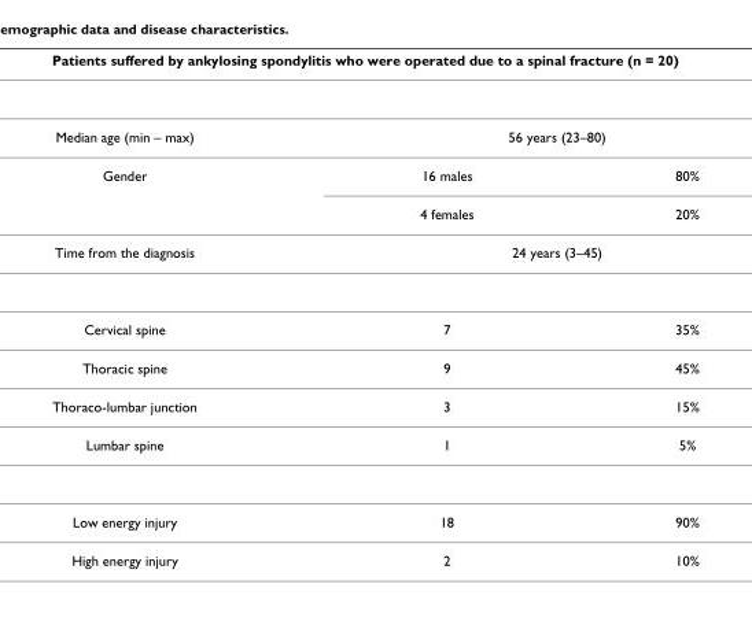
<table><thead><tr><td colspan="3">Patients suffered by ankylosing spondylitis who were operated due to a spinal fracture (n = 20)</td></tr><tr><td rowspan="2">Median age (min – max) Gender</td><td colspan="2">56 years (23–80)</td></tr><tr><td>16 males</td><td>80%</td></tr></thead><tbody><tr><td></td><td>4 females</td><td>20%</td></tr><tr><td>Time from the diagnosis</td><td colspan="2">24 years (3–45)</td></tr><tr><td>Cervical spine</td><td>7</td><td>35%</td></tr><tr><td>Thoracic spine</td><td>9</td><td>45%</td></tr><tr><td>Thoraco-lumbar junction</td><td>3</td><td>15%</td></tr><tr><td>Lumbar spine</td><td>1</td><td>5%</td></tr><tr><td>Low energy injury</td><td>18</td><td>90%</td></tr><tr><td>High energy injury</td><td>2</td><td>10%</td></tr></tbody></table>